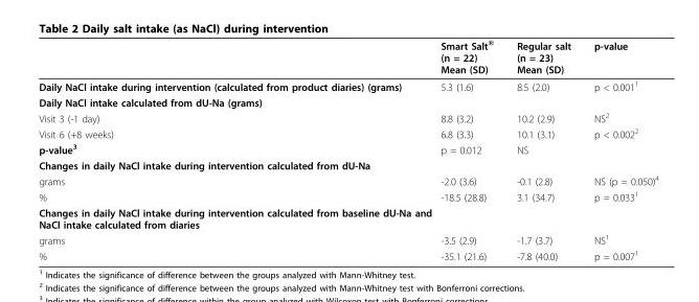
<table><thead><tr><td></td><td>Smart Salt<sup>®</sup> (n = 22) Mean (SD)</td><td>Regular salt (n = 23) Mean (SD)</td><td>p-value</td></tr></thead><tbody><tr><td>Daily NaCl intake during intervention (calculated from product diaries) (grams)</td><td>5.3 (1.6)</td><td>8.5 (2.0)</td><td>p &lt; 0.001<sup>1</sup></td></tr><tr><td colspan="4">Daily NaCl intake calculated from dU-Na (grams)</td></tr><tr><td>Visit 3 (-1 day)</td><td>8.8 (3.2)</td><td>10.2 (2.9)</td><td>NS<sup>2</sup></td></tr><tr><td>Visit 6 (+8 weeks)</td><td>6.8 (3.3)</td><td>10.1 (3.1)</td><td>p &lt; 0.002<sup>2</sup></td></tr><tr><td>p-value<sup>3</sup></td><td>p = 0.012</td><td>NS</td><td></td></tr><tr><td colspan="4">Changes in daily NaCl intake during intervention calculated from dU-Na</td></tr><tr><td>grams</td><td>-2.0 (3.6)</td><td>-0.1 (2.8)</td><td>NS (p = 0.050)<sup>4</sup></td></tr><tr><td>%</td><td>-18.5 (28.8)</td><td>3.1 (34.7)</td><td>p = 0.033<sup>1</sup></td></tr><tr><td colspan="4">Changes in daily NaCl intake during intervention calculated from baseline dU-Na and NaCl intake calculated from diaries</td></tr><tr><td>grams</td><td>-3.5 (2.9)</td><td>-1.7 (3.7)</td><td>NS<sup>1</sup></td></tr><tr><td>%</td><td>-35.1 (21.6)</td><td>-7.8 (40.0)</td><td>p = 0.007<sup>1</sup></td></tr></tbody></table>